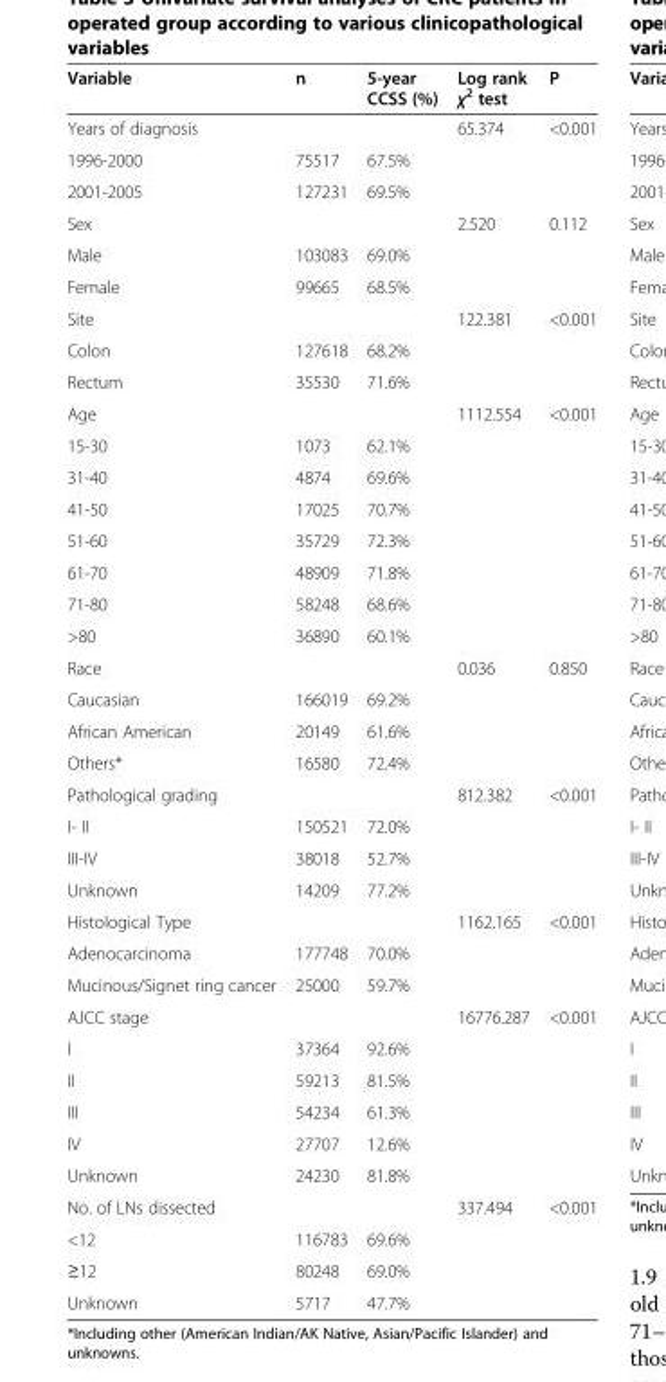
<table><thead><tr><td>Variable</td><td>n</td><td>5-year CCSS (%)</td><td>Log rank χ<sup>2</sup> test</td><td>P</td></tr></thead><tbody><tr><td>Years of diagnosis</td><td></td><td></td><td>65.374</td><td>&lt;0.001</td></tr><tr><td>1996-2000</td><td>75517</td><td>67.5%</td><td></td><td></td></tr><tr><td>2001-2005</td><td>127231</td><td>69.5%</td><td></td><td></td></tr><tr><td>Sex</td><td></td><td></td><td>2.520</td><td>0.112</td></tr><tr><td>Male</td><td>103083</td><td>69.0%</td><td></td><td></td></tr><tr><td>Female</td><td>99665</td><td>68.5%</td><td></td><td></td></tr><tr><td>Site</td><td></td><td></td><td>122.381</td><td>&lt;0.001</td></tr><tr><td>Colon</td><td>127618</td><td>68.2%</td><td></td><td></td></tr><tr><td>Rectum</td><td>35530</td><td>71.6%</td><td></td><td></td></tr><tr><td>Age</td><td></td><td></td><td>1112.554</td><td>&lt;0.001</td></tr><tr><td>15-30</td><td>1073</td><td>62.1%</td><td></td><td></td></tr><tr><td>31-40</td><td>4874</td><td>69.6%</td><td></td><td></td></tr><tr><td>41-50</td><td>17025</td><td>70.7%</td><td></td><td></td></tr><tr><td>51-60</td><td>35729</td><td>72.3%</td><td></td><td></td></tr><tr><td>61-70</td><td>48909</td><td>71.8%</td><td></td><td></td></tr><tr><td>71-80</td><td>58248</td><td>68.6%</td><td></td><td></td></tr><tr><td>&gt;80</td><td>36890</td><td>60.1%</td><td></td><td></td></tr><tr><td>Race</td><td></td><td></td><td>0.036</td><td>0.850</td></tr><tr><td>Caucasian</td><td>166019</td><td>69.2%</td><td></td><td></td></tr><tr><td>African American</td><td>20149</td><td>61.6%</td><td></td><td></td></tr><tr><td>Others*</td><td>16580</td><td>72.4%</td><td></td><td></td></tr><tr><td>Pathological grading</td><td></td><td></td><td>812.382</td><td>&lt;0.001</td></tr><tr><td>I- II</td><td>150521</td><td>72.0%</td><td></td><td></td></tr><tr><td>III-IV</td><td>38018</td><td>52.7%</td><td></td><td></td></tr><tr><td>Unknown</td><td>14209</td><td>77.2%</td><td></td><td></td></tr><tr><td>Histological Type</td><td></td><td></td><td>1162.165</td><td>&lt;0.001</td></tr><tr><td>Adenocarcinoma</td><td>177748</td><td>70.0%</td><td></td><td></td></tr><tr><td>Mucinous/Signet ring cancer</td><td>25000</td><td>59.7%</td><td></td><td></td></tr><tr><td>AJCC stage</td><td></td><td></td><td>16776.287</td><td>&lt;0.001</td></tr><tr><td>I</td><td>37364</td><td>92.6%</td><td></td><td></td></tr><tr><td>II</td><td>59213</td><td>81.5%</td><td></td><td></td></tr><tr><td>III</td><td>54234</td><td>61.3%</td><td></td><td></td></tr><tr><td>IV</td><td>27707</td><td>12.6%</td><td></td><td></td></tr><tr><td>Unknown</td><td>24230</td><td>81.8%</td><td></td><td></td></tr><tr><td>No. of LNs dissected</td><td></td><td></td><td>337.494</td><td>&lt;0.001</td></tr><tr><td>&lt;12</td><td>116783</td><td>69.6%</td><td></td><td></td></tr><tr><td>≥12</td><td>80248</td><td>69.0%</td><td></td><td></td></tr><tr><td>Unknown</td><td>5717</td><td>47.7%</td><td></td><td></td></tr></tbody></table>